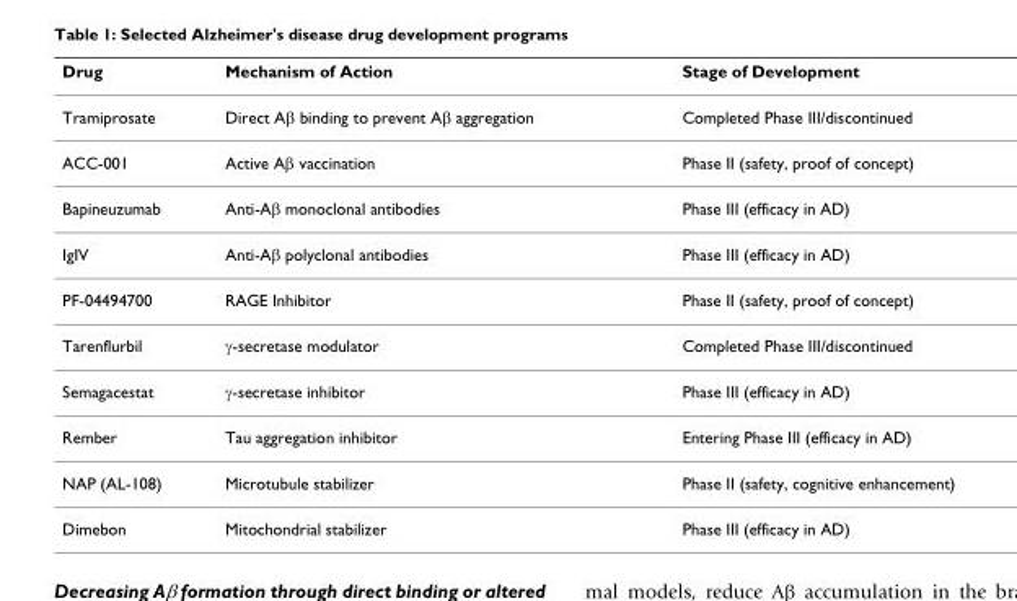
<table><thead><tr><td>Drug</td><td>Mechanism of Action</td><td>Stage of Development</td></tr></thead><tbody><tr><td>Tramiprosate</td><td>Direct Aβ binding to prevent Aβ aggregation</td><td>Completed Phase III/discontinued</td></tr><tr><td>ACC-001</td><td>Active Aβ vaccination</td><td>Phase II (safety, proof of concept)</td></tr><tr><td>Bapineuzumab</td><td>Anti-Aβ monoclonal antibodies</td><td>Phase III (efficacy in AD)</td></tr><tr><td>IgIV</td><td>Anti-Aβ polyclonal antibodies</td><td>Phase III (efficacy in AD)</td></tr><tr><td>PF-04494700</td><td>RAGE Inhibitor</td><td>Phase II (safety, proof of concept)</td></tr><tr><td>Tarenflurbil</td><td>γ-secretase modulator</td><td>Completed Phase III/discontinued</td></tr><tr><td>Semagacestat</td><td>γ-secretase inhibitor</td><td>Phase III (efficacy in AD)</td></tr><tr><td>Rember</td><td>Tau aggregation inhibitor</td><td>Entering Phase III (efficacy in AD)</td></tr><tr><td>NAP (AL-108)</td><td>Microtubule stabilizer</td><td>Phase II (safety, cognitive enhancement)</td></tr><tr><td>Dimebon</td><td>Mitochondrial stabilizer</td><td>Phase III (efficacy in AD)</td></tr></tbody></table>